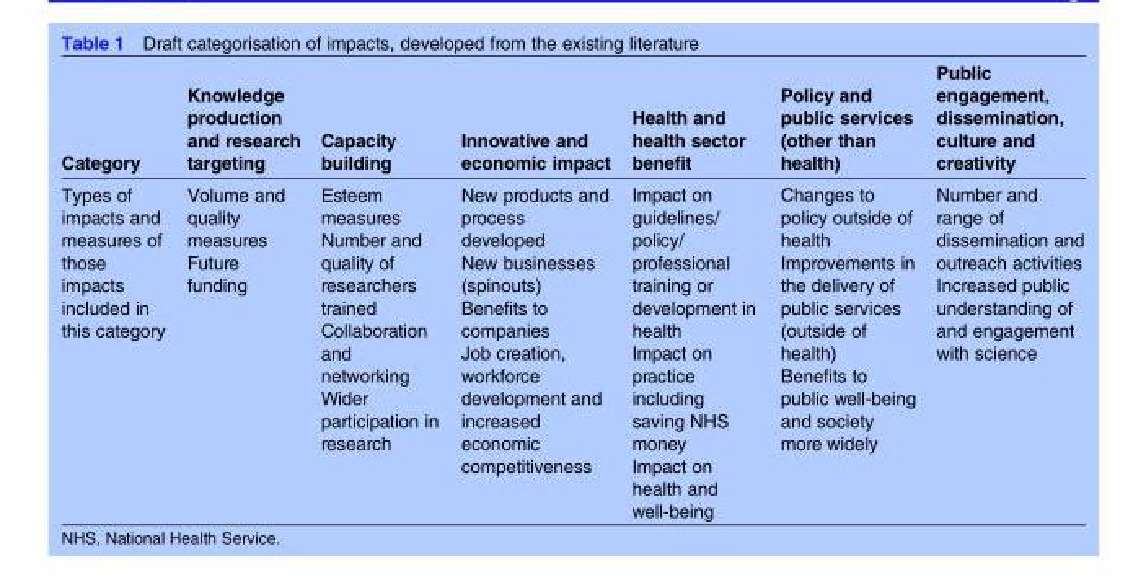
<table><thead><tr><td>Category</td><td>Knowledge production and research targeting</td><td>Capacity building</td><td>Innovative and economic impact</td><td>Health and health sector benefit</td><td>Policy and public services (other than health)</td><td>Public engagement, dissemination, culture and creativity</td></tr></thead><tbody><tr><td>Types of impacts and measures of those impacts included in this category</td><td>Volume and quality measures Future funding</td><td>Esteem measures Number and quality of researchers trained Collaboration and networking Wider participation in research</td><td>New products and process developed New businesses (spinouts) Benefits to companies Job creation, workforce development and increased economic competitiveness</td><td>Impact on guidelines/ policy/ professional training or development in health Impact on practice including saving NHS money Impact on health and well-being</td><td>Changes to policy outside of health Improvements in the delivery of public services (outside of health) Benefits to public well-being and society more widely</td><td>Number and range of dissemination and outreach activities Increased public understanding of and engagement with science</td></tr></tbody></table>